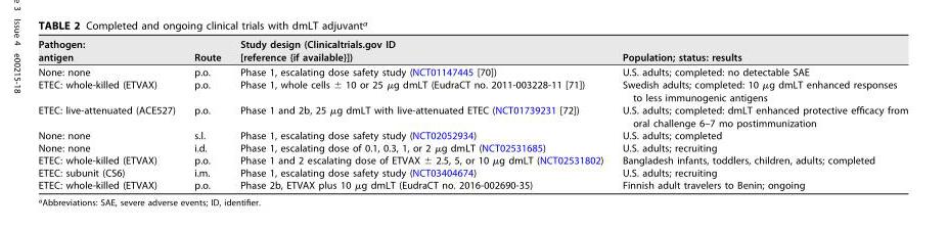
<table><thead><tr><td>Pathogen: antigen</td><td>Route</td><td>Study design (Clinicaltrials.gov ID [reference {if available}])</td><td>Population; status: results</td></tr></thead><tbody><tr><td>None: none</td><td>p.o.</td><td>Phase 1, escalating dose safety study (NCT01147445 [70])</td><td>U.S. adults; completed: no detectable SAE</td></tr><tr><td>ETEC: whole-killed (ETVAX)</td><td>p.o.</td><td>Phase 1, whole cells ± 10 or 25 µg dmLT (EudraCT no. 2011-003228-11 [71])</td><td>Swedish adults; completed: 10 µg dmLT enhanced responses to less immunogenic antigens</td></tr><tr><td>ETEC: live-attenuated (ACE527)</td><td>p.o.</td><td>Phase 1 and 2b, 25 µg dmLT with live-attenuated ETEC (NCT01739231 [72])</td><td>U.S. adults; completed: dmLT enhanced protective efficacy from oral challenge 6–7 mo postimmunization</td></tr><tr><td>None: none</td><td>s.l.</td><td>Phase 1, escalating dose safety study (NCT02052934)</td><td>U.S. adults; completed</td></tr><tr><td>None: none</td><td>i.d.</td><td>Phase 1, escalating dose of 0.1, 0.3, 1, or 2 µg dmLT (NCT02531685)</td><td>U.S. adults; recruiting</td></tr><tr><td>ETEC: whole-killed (ETVAX)</td><td>p.o.</td><td>Phase 1 and 2 escalating dose of ETVAX ± 2.5, 5, or 10 µg dmLT (NCT02531802)</td><td>Bangladesh infants, toddlers, children, adults; completed</td></tr><tr><td>ETEC: subunit (CS6)</td><td>i.m.</td><td>Phase 1, escalating dose safety study (NCT03404674)</td><td>U.S. adults; recruiting</td></tr><tr><td>ETEC: whole-killed (ETVAX)</td><td>p.o.</td><td>Phase 2b, ETVAX plus 10 µg dmLT (EudraCT no. 2016-002690-35)</td><td>Finnish adult travelers to Benin; ongoing</td></tr></tbody></table>